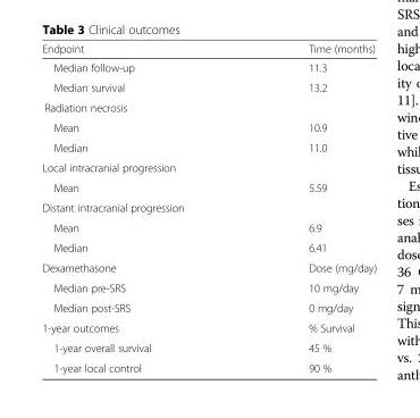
<table><thead><tr><td>Endpoint</td><td>Time (months)</td></tr></thead><tbody><tr><td>Median follow-up</td><td>11.3</td></tr><tr><td>Median survival</td><td>13.2</td></tr><tr><td colspan="2">Radiation necrosis</td></tr><tr><td>Mean</td><td>10.9</td></tr><tr><td>Median</td><td>11.0</td></tr><tr><td colspan="2">Local intracranial progression</td></tr><tr><td>Mean</td><td>5.59</td></tr><tr><td colspan="2">Distant intracranial progression</td></tr><tr><td>Mean</td><td>6.9</td></tr><tr><td>Median</td><td>6.41</td></tr><tr><td>Dexamethasone</td><td>Dose (mg/day)</td></tr><tr><td>Median pre-SRS</td><td>10 mg/day</td></tr><tr><td>Median post-SRS</td><td>0 mg/day</td></tr><tr><td>1-year outcomes</td><td>% Survival</td></tr><tr><td>1-year overall survival</td><td>45 %</td></tr><tr><td>1-year local control</td><td>90 %</td></tr></tbody></table>